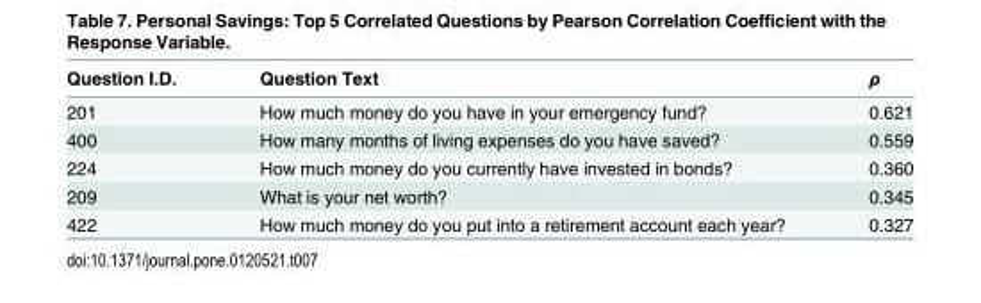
<table><thead><tr><td>Question I.D.</td><td>Question Text</td><td>ρ</td></tr></thead><tbody><tr><td>201</td><td>How much money do you have in your emergency fund?</td><td>0.621</td></tr><tr><td>400</td><td>How many months of living expenses do you have saved?</td><td>0.559</td></tr><tr><td>224</td><td>How much money do you currently have invested in bonds?</td><td>0.360</td></tr><tr><td>209</td><td>What is your net worth?</td><td>0.345</td></tr><tr><td>422</td><td>How much money do you put into a retirement account each year?</td><td>0.327</td></tr></tbody></table>